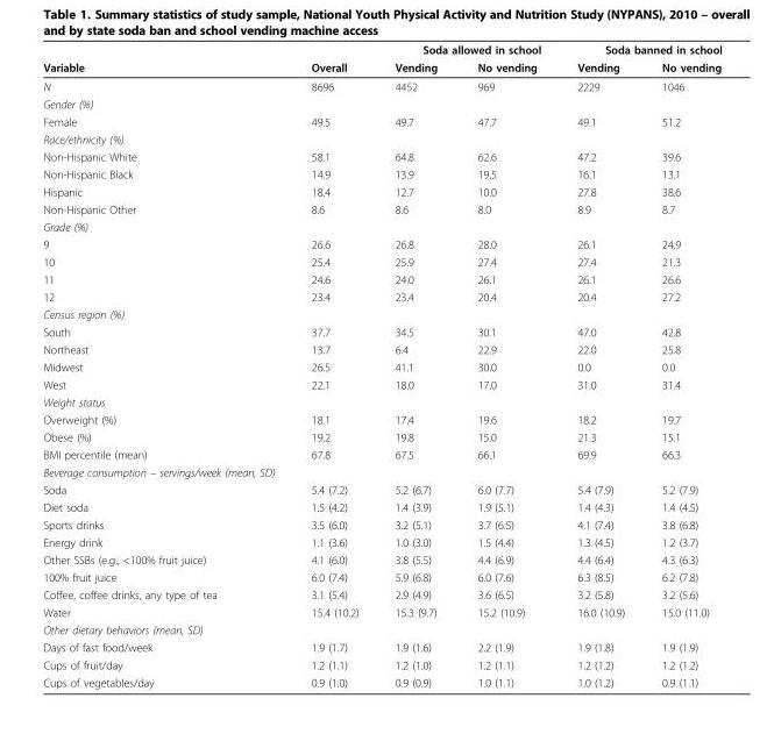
<table><thead><tr><td rowspan="2">Variable</td><td rowspan="2">Overall</td><td colspan="2">Soda allowed in school</td><td colspan="2">Soda banned in school</td></tr><tr><td>Vending</td><td>No vending</td><td>Vending</td><td>No vending</td></tr></thead><tbody><tr><td>N</td><td>8696</td><td>4452</td><td>969</td><td>2229</td><td>1046</td></tr><tr><td colspan="6">Gender (%)</td></tr><tr><td>Female</td><td>49.5</td><td>49.7</td><td>47.7</td><td>49.1</td><td>51.2</td></tr><tr><td colspan="6">Race/ethnicity (%)</td></tr><tr><td>Non-Hispanic White</td><td>58.1</td><td>64.8</td><td>62.6</td><td>47.2</td><td>39.6</td></tr><tr><td>Non-Hispanic Black</td><td>14.9</td><td>13.9</td><td>19.5</td><td>16.1</td><td>13.1</td></tr><tr><td>Hispanic</td><td>18.4</td><td>12.7</td><td>10.0</td><td>27.8</td><td>38.6</td></tr><tr><td>Non-Hispanic Other</td><td>8.6</td><td>8.6</td><td>8.0</td><td>8.9</td><td>8.7</td></tr><tr><td colspan="6">Grade (%)</td></tr><tr><td>9</td><td>26.6</td><td>26.8</td><td>28.0</td><td>26.1</td><td>24.9</td></tr><tr><td>10</td><td>25.4</td><td>25.9</td><td>27.4</td><td>27.4</td><td>21.3</td></tr><tr><td>11</td><td>24.6</td><td>24.0</td><td>26.1</td><td>26.1</td><td>26.6</td></tr><tr><td>12</td><td>23.4</td><td>23.4</td><td>20.4</td><td>20.4</td><td>27.2</td></tr><tr><td colspan="6">Census region (%)</td></tr><tr><td>South</td><td>37.7</td><td>34.5</td><td>30.1</td><td>47.0</td><td>42.8</td></tr><tr><td>Northeast</td><td>13.7</td><td>6.4</td><td>22.9</td><td>22.0</td><td>25.8</td></tr><tr><td>Midwest</td><td>26.5</td><td>41.1</td><td>30.0</td><td>0.0</td><td>0.0</td></tr><tr><td>West</td><td>22.1</td><td>18.0</td><td>17.0</td><td>31.0</td><td>31.4</td></tr><tr><td colspan="6">Weight status</td></tr><tr><td>Overweight (%)</td><td>18.1</td><td>17.4</td><td>19.6</td><td>18.2</td><td>19.7</td></tr><tr><td>Obese (%)</td><td>19.2</td><td>19.8</td><td>15.0</td><td>21.3</td><td>15.1</td></tr><tr><td>BMI percentile (mean)</td><td>67.8</td><td>67.5</td><td>66.1</td><td>69.9</td><td>66.3</td></tr><tr><td colspan="6">Beverage consumption – servings/week (mean, SD)</td></tr><tr><td>Soda</td><td>5.4 (7.2)</td><td>5.2 (6.7)</td><td>6.0 (7.7)</td><td>5.4 (7.9)</td><td>5.2 (7.9)</td></tr><tr><td>Diet soda</td><td>1.5 (4.2)</td><td>1.4 (3.9)</td><td>1.9 (5.1)</td><td>1.4 (4.3)</td><td>1.4 (4.5)</td></tr><tr><td>Sports drinks</td><td>3.5 (6.0)</td><td>3.2 (5.1)</td><td>3.7 (6.5)</td><td>4.1 (7.4)</td><td>3.8 (6.8)</td></tr><tr><td>Energy drink</td><td>1.1 (3.6)</td><td>1.0 (3.0)</td><td>1.5 (4.4)</td><td>1.3 (4.5)</td><td>1.2 (3.7)</td></tr><tr><td>Other SSBs (e.g., &lt;100% fruit juice)</td><td>4.1 (6.0)</td><td>3.8 (5.5)</td><td>4.4 (6.9)</td><td>4.4 (6.4)</td><td>4.3 (6.3)</td></tr><tr><td>100% fruit juice</td><td>6.0 (7.4)</td><td>5.9 (6.8)</td><td>6.0 (7.6)</td><td>6.3 (8.5)</td><td>6.2 (7.8)</td></tr><tr><td>Coffee, coffee drinks, any type of tea</td><td>3.1 (5.4)</td><td>2.9 (4.9)</td><td>3.6 (6.5)</td><td>3.2 (5.8)</td><td>3.2 (5.6)</td></tr><tr><td>Water</td><td>15.4 (10.2)</td><td>15.3 (9.7)</td><td>15.2 (10.9)</td><td>16.0 (10.9)</td><td>15.0 (11.0)</td></tr><tr><td colspan="6">Other dietary behaviors (mean, SD)</td></tr><tr><td>Days of fast food/week</td><td>1.9 (1.7)</td><td>1.9 (1.6)</td><td>2.2 (1.9)</td><td>1.9 (1.8)</td><td>1.9 (1.9)</td></tr><tr><td>Cups of fruit/day</td><td>1.2 (1.1)</td><td>1.2 (1.0)</td><td>1.2 (1.1)</td><td>1.2 (1.2)</td><td>1.2 (1.2)</td></tr><tr><td>Cups of vegetables/day</td><td>0.9 (1.0)</td><td>0.9 (0.9)</td><td>1.0 (1.1)</td><td>1.0 (1.2)</td><td>0.9 (1.1)</td></tr></tbody></table>